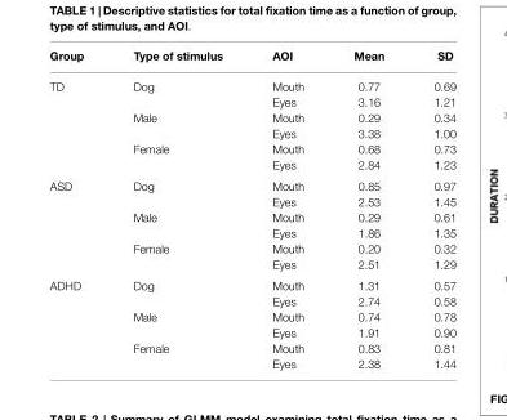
<table><thead><tr><td>Group</td><td>Type of stimulus</td><td>AOI</td><td>Mean</td><td>SD</td></tr></thead><tbody><tr><td rowspan="6">TD</td><td>Dog</td><td>Mouth</td><td>0.77</td><td>0.69</td></tr><tr><td></td><td>Eyes</td><td>3.16</td><td>1.21</td></tr><tr><td>Male</td><td>Mouth</td><td>0.29</td><td>0.34</td></tr><tr><td></td><td>Eyes</td><td>3.38</td><td>1.00</td></tr><tr><td>Female</td><td>Mouth</td><td>0.68</td><td>0.73</td></tr><tr><td></td><td>Eyes</td><td>2.84</td><td>1.23</td></tr><tr><td rowspan="6">ASD</td><td>Dog</td><td>Mouth</td><td>0.85</td><td>0.97</td></tr><tr><td></td><td>Eyes</td><td>2.53</td><td>1.45</td></tr><tr><td>Male</td><td>Mouth</td><td>0.29</td><td>0.61</td></tr><tr><td></td><td>Eyes</td><td>1.86</td><td>1.35</td></tr><tr><td>Female</td><td>Mouth</td><td>0.20</td><td>0.32</td></tr><tr><td></td><td>Eyes</td><td>2.51</td><td>1.29</td></tr><tr><td rowspan="6">ADHD</td><td>Dog</td><td>Mouth</td><td>1.31</td><td>0.57</td></tr><tr><td></td><td>Eyes</td><td>2.74</td><td>0.58</td></tr><tr><td>Male</td><td>Mouth</td><td>0.74</td><td>0.78</td></tr><tr><td></td><td>Eyes</td><td>1.91</td><td>0.90</td></tr><tr><td>Female</td><td>Mouth</td><td>0.83</td><td>0.81</td></tr><tr><td></td><td>Eyes</td><td>2.38</td><td>1.44</td></tr></tbody></table>